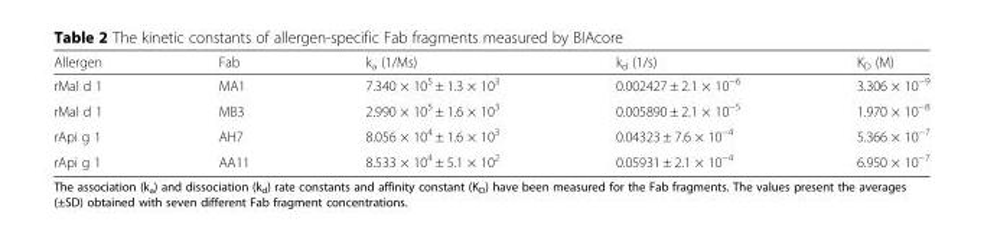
<table><thead><tr><td>Allergen</td><td>Fab</td><td>k<sub>a</sub> (1/Ms)</td><td>k<sub>d</sub> (1/s)</td><td>K<sub>D</sub> (M)</td></tr></thead><tbody><tr><td>rMal d 1</td><td>MA1</td><td>7.340 × 10<sup>5</sup> ± 1.3 × 10<sup>3</sup></td><td>0.002427 ± 2.1 × 10<sup>−6</sup></td><td>3.306 × 10<sup>−9</sup></td></tr><tr><td>rMal d 1</td><td>MB3</td><td>2.990 × 10<sup>5</sup> ± 1.6 × 10<sup>3</sup></td><td>0.005890 ± 2.1 × 10<sup>−5</sup></td><td>1.970 × 10<sup>−8</sup></td></tr><tr><td>rApi g 1</td><td>AH7</td><td>8.056 × 10<sup>4</sup> ± 1.6 × 10<sup>3</sup></td><td>0.04323 ± 7.6 × 10<sup>−4</sup></td><td>5.366 × 10<sup>−7</sup></td></tr><tr><td>rApi g 1</td><td>AA11</td><td>8.533 × 10<sup>4</sup> ± 5.1 × 10<sup>2</sup></td><td>0.05931 ± 2.1 × 10<sup>−4</sup></td><td>6.950 × 10<sup>−7</sup></td></tr></tbody></table>